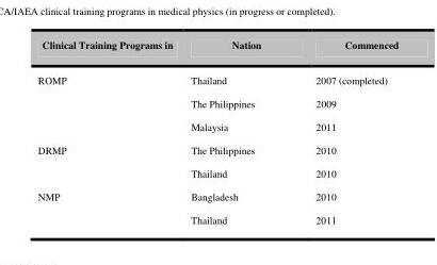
<table><thead><tr><td>Clinical Training Programs in</td><td>Nation</td><td>Commenced</td></tr></thead><tbody><tr><td>ROMP</td><td>Thailand The Philippines Malaysia</td><td>2007 (completed) 2009 2011</td></tr><tr><td>DRMP</td><td>The Philippines Thailand</td><td>2010 2010</td></tr><tr><td>NMP</td><td>Bangladesh Thailand</td><td>2010 2011</td></tr></tbody></table>